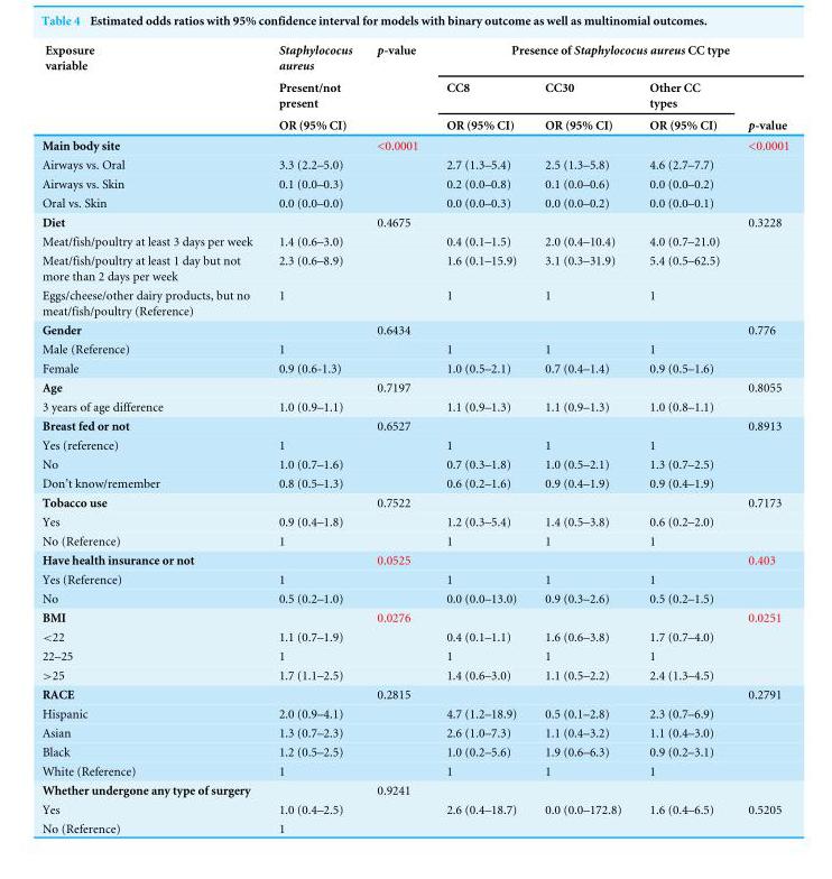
<table><thead><tr><td rowspan="3">Exposure variable</td><td rowspan="3">Staphylococus aureus Present/not present OR (95% CI)</td><td rowspan="3">p-value</td><td colspan="4">Presence of Staphylococus aureus CC type</td></tr><tr><td rowspan="2">CC8 OR (95% CI)</td><td rowspan="2">CC30 OR (95% CI)</td><td rowspan="2">Other CC types OR (95% CI)</td><td rowspan="2">p-value</td></tr><tr></tr></thead><tbody><tr><td>Main body site</td><td></td><td>&lt;0.0001</td><td></td><td></td><td></td><td>&lt;0.0001</td></tr><tr><td>Airways vs. Oral</td><td>3.3 (2.2–5.0)</td><td></td><td>2.7 (1.3–5.4)</td><td>2.5 (1.3–5.8)</td><td>4.6 (2.7–7.7)</td><td></td></tr><tr><td>Airways vs. Skin</td><td>0.1 (0.0–0.3)</td><td></td><td>0.2 (0.0–0.8)</td><td>0.1 (0.0–0.6)</td><td>0.0 (0.0–0.2)</td><td></td></tr><tr><td>Oral vs. Skin</td><td>0.0 (0.0–0.0)</td><td></td><td>0.0 (0.0–0.3)</td><td>0.0 (0.0–0.2)</td><td>0.0 (0.0–0.1)</td><td></td></tr><tr><td>Diet</td><td></td><td>0.4675</td><td></td><td></td><td></td><td>0.3228</td></tr><tr><td>Meat/fish/poultry at least 3 days per week</td><td>1.4 (0.6–3.0)</td><td></td><td>0.4 (0.1–1.5)</td><td>2.0 (0.4–10.4)</td><td>4.0 (0.7–21.0)</td><td></td></tr><tr><td>Meat/fish/poultry at least 1 day but not more than 2 days per week</td><td>2.3 (0.6–8.9)</td><td></td><td>1.6 (0.1–15.9)</td><td>3.1 (0.3–31.9)</td><td>5.4 (0.5–62.5)</td><td></td></tr><tr><td>Eggs/cheese/other dairy products, but no meat/fish/poultry (Reference)</td><td>1</td><td></td><td>1</td><td>1</td><td>1</td><td></td></tr><tr><td>Gender</td><td></td><td>0.6434</td><td></td><td></td><td></td><td>0.776</td></tr><tr><td>Male (Reference)</td><td>1</td><td></td><td>1</td><td>1</td><td>1</td><td></td></tr><tr><td>Female</td><td>0.9 (0.6-1.3)</td><td></td><td>1.0 (0.5–2.1)</td><td>0.7 (0.4–1.4)</td><td>0.9 (0.5–1.6)</td><td></td></tr><tr><td>Age</td><td></td><td>0.7197</td><td></td><td></td><td></td><td>0.8055</td></tr><tr><td>3 years of age difference</td><td>1.0 (0.9–1.1)</td><td></td><td>1.1 (0.9–1.3)</td><td>1.1 (0.9–1.3)</td><td>1.0 (0.8–1.1)</td><td></td></tr><tr><td>Breast fed or not</td><td></td><td>0.6527</td><td></td><td></td><td></td><td>0.8913</td></tr><tr><td>Yes (reference)</td><td>1</td><td></td><td>1</td><td>1</td><td>1</td><td></td></tr><tr><td>No</td><td>1.0 (0.7–1.6)</td><td></td><td>0.7 (0.3–1.8)</td><td>1.0 (0.5–2.1)</td><td>1.3 (0.7–2.5)</td><td></td></tr><tr><td>Don’t know/remember</td><td>0.8 (0.5–1.3)</td><td></td><td>0.6 (0.2–1.6)</td><td>0.9 (0.4–1.9)</td><td>0.9 (0.4–1.9)</td><td></td></tr><tr><td>Tobacco use</td><td></td><td>0.7522</td><td></td><td></td><td></td><td>0.7173</td></tr><tr><td>Yes</td><td>0.9 (0.4–1.8)</td><td></td><td>1.2 (0.3–5.4)</td><td>1.4 (0.5–3.8)</td><td>0.6 (0.2–2.0)</td><td></td></tr><tr><td>No (Reference)</td><td>1</td><td></td><td>1</td><td>1</td><td>1</td><td></td></tr><tr><td>Have health insurance or not</td><td></td><td>0.0525</td><td></td><td></td><td></td><td>0.403</td></tr><tr><td>Yes (Reference)</td><td>1</td><td></td><td>1</td><td>1</td><td>1</td><td></td></tr><tr><td>No</td><td>0.5 (0.2–1.0)</td><td></td><td>0.0 (0.0–13.0)</td><td>0.9 (0.3–2.6)</td><td>0.5 (0.2–1.5)</td><td></td></tr><tr><td>BMI</td><td></td><td>0.0276</td><td></td><td></td><td></td><td>0.0251</td></tr><tr><td>&lt;22</td><td>1.1 (0.7–1.9)</td><td></td><td>0.4 (0.1–1.1)</td><td>1.6 (0.6–3.8)</td><td>1.7 (0.7–4.0)</td><td></td></tr><tr><td>22–25</td><td>1</td><td></td><td>1</td><td>1</td><td>1</td><td></td></tr><tr><td>&gt;25</td><td>1.7 (1.1–2.5)</td><td></td><td>1.4 (0.6–3.0)</td><td>1.1 (0.5–2.2)</td><td>2.4 (1.3–4.5)</td><td></td></tr><tr><td>RACE</td><td></td><td>0.2815</td><td></td><td></td><td></td><td>0.2791</td></tr><tr><td>Hispanic</td><td>2.0 (0.9–4.1)</td><td></td><td>4.7 (1.2–18.9)</td><td>0.5 (0.1–2.8)</td><td>2.3 (0.7–6.9)</td><td></td></tr><tr><td>Asian</td><td>1.3 (0.7–2.3)</td><td></td><td>2.6 (1.0–7.3)</td><td>1.1 (0.4–3.2)</td><td>1.1 (0.4–3.0)</td><td></td></tr><tr><td>Black</td><td>1.2 (0.5–2.5)</td><td></td><td>1.0 (0.2–5.6)</td><td>1.9 (0.6–6.3)</td><td>0.9 (0.2–3.1)</td><td></td></tr><tr><td>White (Reference)</td><td>1</td><td></td><td>1</td><td>1</td><td>1</td><td></td></tr><tr><td>Whether undergone any type of surgery</td><td></td><td>0.9241</td><td></td><td></td><td></td><td></td></tr><tr><td>Yes</td><td>1.0 (0.4–2.5)</td><td></td><td>2.6 (0.4–18.7)</td><td>0.0 (0.0–172.8)</td><td>1.6 (0.4–6.5)</td><td>0.5205</td></tr><tr><td>No (Reference)</td><td>1</td><td></td><td></td><td></td><td></td><td></td></tr></tbody></table>